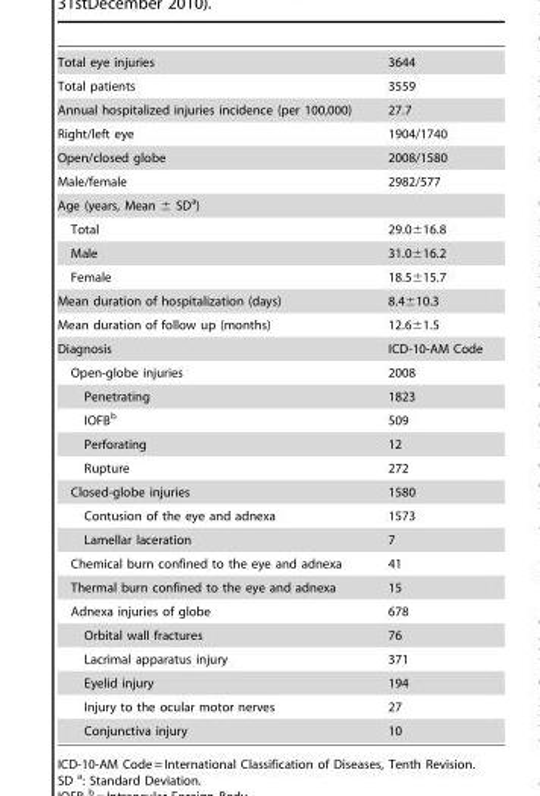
<table><tbody><tr><td>Total eye injuries</td><td>3644</td></tr><tr><td>Total patients</td><td>3559</td></tr><tr><td>Annual hospitalized injuries incidence (per 100,000)</td><td>27.7</td></tr><tr><td>Right/left eye</td><td>1904/1740</td></tr><tr><td>Open/closed globe</td><td>2008/1580</td></tr><tr><td>Male/female</td><td>2982/577</td></tr><tr><td colspan="2">Age (years, Mean ± SD<sup>a</sup>)</td></tr><tr><td>Total</td><td>29.0±16.8</td></tr><tr><td>Male</td><td>31.0±16.2</td></tr><tr><td>Female</td><td>18.5±15.7</td></tr><tr><td>Mean duration of hospitalization (days)</td><td>8.4±10.3</td></tr><tr><td>Mean duration of follow up (months)</td><td>12.6±1.5</td></tr><tr><td>Diagnosis</td><td>ICD-10-AM Code</td></tr><tr><td>Open-globe injuries</td><td>2008</td></tr><tr><td>Penetrating</td><td>1823</td></tr><tr><td>IOFB<sup>b</sup></td><td>509</td></tr><tr><td>Perforating</td><td>12</td></tr><tr><td>Rupture</td><td>272</td></tr><tr><td>Closed-globe injuries</td><td>1580</td></tr><tr><td>Contusion of the eye and adnexa</td><td>1573</td></tr><tr><td>Lamellar laceration</td><td>7</td></tr><tr><td>Chemical burn confined to the eye and adnexa</td><td>41</td></tr><tr><td>Thermal burn confined to the eye and adnexa</td><td>15</td></tr><tr><td>Adnexa injuries of globe</td><td>678</td></tr><tr><td>Orbital wall fractures</td><td>76</td></tr><tr><td>Lacrimal apparatus injury</td><td>371</td></tr><tr><td>Eyelid injury</td><td>194</td></tr><tr><td>Injury to the ocular motor nerves</td><td>27</td></tr><tr><td>Conjunctiva injury</td><td>10</td></tr></tbody></table>